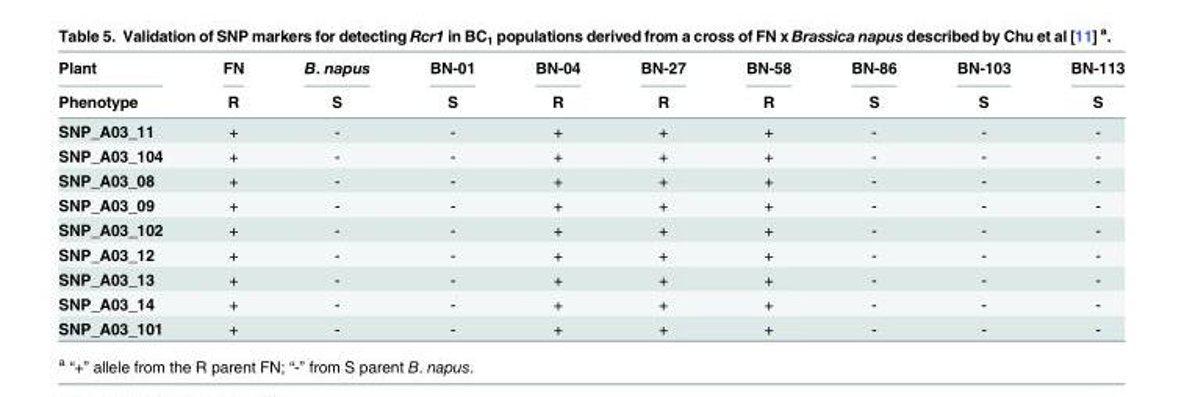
<table><thead><tr><td rowspan="2">Plant Phenotype</td><td rowspan="2">FN R</td><td rowspan="2">B. napus S</td><td rowspan="2">BN-01 S</td><td rowspan="2">BN-04 R</td><td rowspan="2">BN-27 R</td><td rowspan="2">BN-58 R</td><td rowspan="2">BN-86 S</td><td rowspan="2">BN-103 S</td><td rowspan="2">BN-113 S</td></tr><tr></tr></thead><tbody><tr><td>SNP_A03_11</td><td>+</td><td>-</td><td>-</td><td>+</td><td>+</td><td>+</td><td>-</td><td>-</td><td>-</td></tr><tr><td>SNP_A03_104</td><td>+</td><td>-</td><td>-</td><td>+</td><td>+</td><td>+</td><td>-</td><td>-</td><td>-</td></tr><tr><td>SNP_A03_08</td><td>+</td><td>-</td><td>-</td><td>+</td><td>+</td><td>+</td><td>-</td><td>-</td><td>-</td></tr><tr><td>SNP_A03_09</td><td>+</td><td>-</td><td>-</td><td>+</td><td>+</td><td>+</td><td>-</td><td>-</td><td>-</td></tr><tr><td>SNP_A03_102</td><td>+</td><td>-</td><td>-</td><td>+</td><td>+</td><td>+</td><td>-</td><td>-</td><td>-</td></tr><tr><td>SNP_A03_12</td><td>+</td><td>-</td><td>-</td><td>+</td><td>+</td><td>+</td><td>-</td><td>-</td><td>-</td></tr><tr><td>SNP_A03_13</td><td>+</td><td>-</td><td>-</td><td>+</td><td>+</td><td>+</td><td>-</td><td>-</td><td>-</td></tr><tr><td>SNP_A03_14</td><td>+</td><td>-</td><td>-</td><td>+</td><td>+</td><td>+</td><td>-</td><td>-</td><td>-</td></tr><tr><td>SNP_A03_101</td><td>+</td><td>-</td><td>-</td><td>+</td><td>+</td><td>+</td><td>-</td><td>-</td><td>-</td></tr></tbody></table>